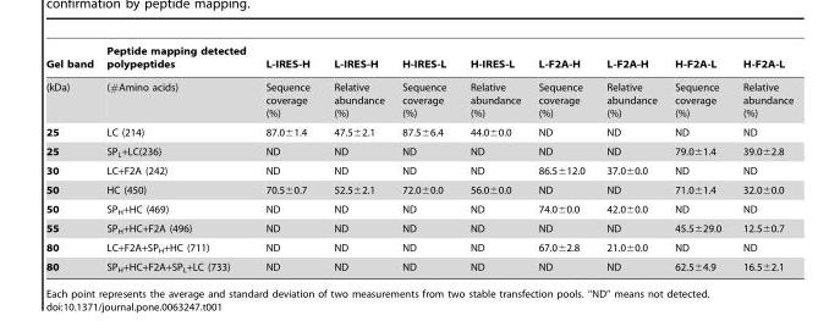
<table><thead><tr><td>Gel band</td><td>Peptide mapping detected polypeptides</td><td>L-IRES-H</td><td>L-IRES-H</td><td>H-IRES-L</td><td>H-IRES-L</td><td>L-F2A-H</td><td>L-F2A-H</td><td>H-F2A-L</td><td>H-F2A-L</td></tr></thead><tbody><tr><td>(kDa)</td><td>(#Amino acids)</td><td>Sequence coverage (%)</td><td>Relative abundance (%)</td><td>Sequence coverage (%)</td><td>Relative abundance (%)</td><td>Sequence coverage (%)</td><td>Relative abundance (%)</td><td>Sequence coverage (%)</td><td>Relative abundance (%)</td></tr><tr><td>25</td><td>LC (214)</td><td>87.0±1.4</td><td>47.5±2.1</td><td>87.5±6.4</td><td>44.0±0.0</td><td>ND</td><td>ND</td><td>ND</td><td>ND</td></tr><tr><td>25</td><td>SP<sub>L</sub>+LC(236)</td><td>ND</td><td>ND</td><td>ND</td><td>ND</td><td>ND</td><td>ND</td><td>79.0±1.4</td><td>39.0±2.8</td></tr><tr><td>30</td><td>LC+F2A (242)</td><td>ND</td><td>ND</td><td>ND</td><td>ND</td><td>86.5±12.0</td><td>37.0±0.0</td><td>ND</td><td>ND</td></tr><tr><td>50</td><td>HC (450)</td><td>70.5±0.7</td><td>52.5±2.1</td><td>72.0±0.0</td><td>56.0±0.0</td><td>ND</td><td>ND</td><td>71.0±1.4</td><td>32.0±0.0</td></tr><tr><td>50</td><td>SP<sub>H</sub>+HC (469)</td><td>ND</td><td>ND</td><td>ND</td><td>ND</td><td>74.0±0.0</td><td>42.0±0.0</td><td>ND</td><td>ND</td></tr><tr><td>55</td><td>SP<sub>H</sub>+HC+F2A (496)</td><td>ND</td><td>ND</td><td>ND</td><td>ND</td><td>ND</td><td>ND</td><td>45.5±29.0</td><td>12.5±0.7</td></tr><tr><td>80</td><td>LC+F2A+SP<sub>H</sub>+HC (711)</td><td>ND</td><td>ND</td><td>ND</td><td>ND</td><td>67.0±2.8</td><td>21.0±0.0</td><td>ND</td><td>ND</td></tr><tr><td>80</td><td>SP<sub>H</sub>+HC+F2A+SP<sub>L</sub>+LC (733)</td><td>ND</td><td>ND</td><td>ND</td><td>ND</td><td>ND</td><td>ND</td><td>62.5±4.9</td><td>16.5±2.1</td></tr></tbody></table>